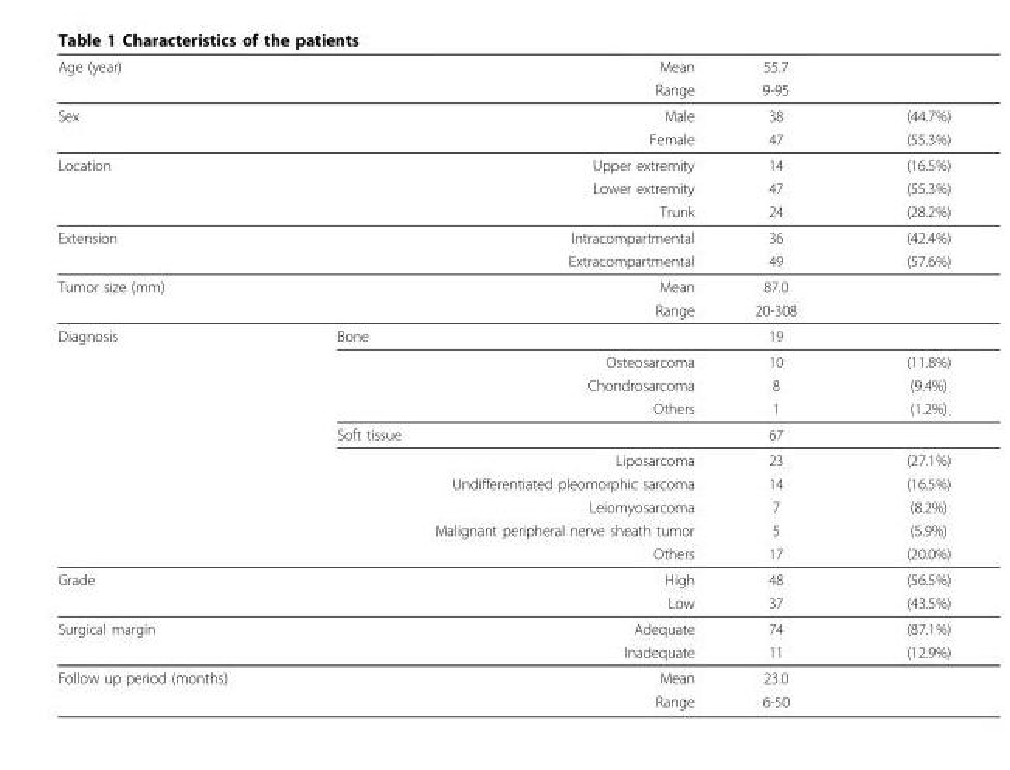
<table><thead><tr><td rowspan="2">Age (year)</td><td rowspan="2">Mean Range</td><td rowspan="2">55.7 9-95</td><td rowspan="2"></td></tr><tr></tr></thead><tbody><tr><td rowspan="2">Sex</td><td>Male</td><td>38</td><td>(44.7%)</td></tr><tr><td>Female</td><td>47</td><td>(55.3%)</td></tr><tr><td rowspan="3">Location</td><td>Upper extremity</td><td>14</td><td>(16.5%)</td></tr><tr><td>Lower extremity</td><td>47</td><td>(55.3%)</td></tr><tr><td>Trunk</td><td>24</td><td>(28.2%)</td></tr><tr><td rowspan="2">Extension</td><td>Intracompartmental</td><td>36</td><td>(42.4%)</td></tr><tr><td>Extracompartmental</td><td>49</td><td>(57.6%)</td></tr><tr><td rowspan="2">Tumor size (mm)</td><td>Mean</td><td>87.0</td><td></td></tr><tr><td>Range</td><td>20-308</td><td></td></tr><tr><td rowspan="10">Diagnosis</td><td>Bone</td><td>19</td><td></td></tr><tr><td>Osteosarcoma</td><td>10</td><td>(11.8%)</td></tr><tr><td>Chondrosarcoma</td><td>8</td><td>(9.4%)</td></tr><tr><td>Others</td><td>1</td><td>(1.2%)</td></tr><tr><td>Soft tissue</td><td>67</td><td></td></tr><tr><td>Liposarcoma</td><td>23</td><td>(27.1%)</td></tr><tr><td>Undifferentiated pleomorphic sarcoma</td><td>14</td><td>(16.5%)</td></tr><tr><td>Leiomyosarcoma</td><td>7</td><td>(8.2%)</td></tr><tr><td>Malignant peripheral nerve sheath tumor</td><td>5</td><td>(5.9%)</td></tr><tr><td>Others</td><td>17</td><td>(20.0%)</td></tr><tr><td rowspan="2">Grade</td><td>High</td><td>48</td><td>(56.5%)</td></tr><tr><td>Low</td><td>37</td><td>(43.5%)</td></tr><tr><td rowspan="2">Surgical margin</td><td>Adequate</td><td>74</td><td>(87.1%)</td></tr><tr><td>Inadequate</td><td>11</td><td>(12.9%)</td></tr><tr><td rowspan="2">Follow up period (months)</td><td>Mean</td><td>23.0</td><td></td></tr><tr><td>Range</td><td>6-50</td><td></td></tr></tbody></table>